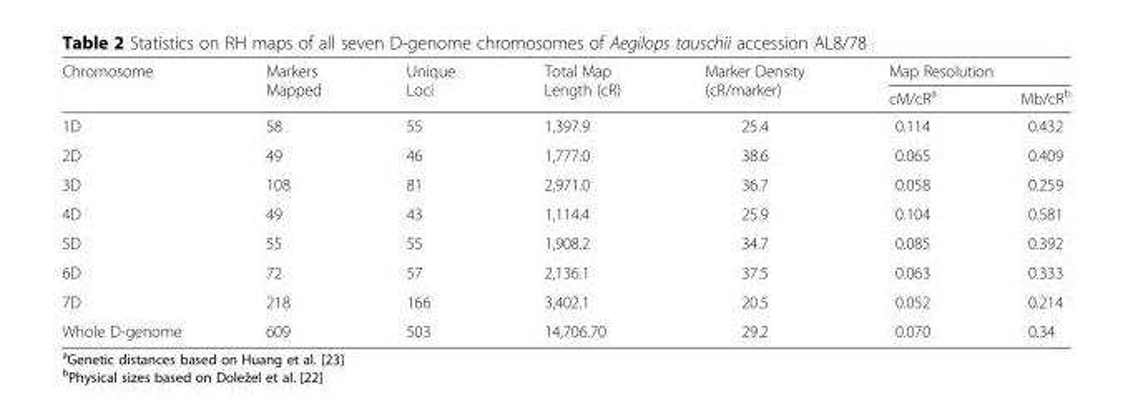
<table><thead><tr><td rowspan="2">Chromosome</td><td rowspan="2">Markers Mapped</td><td rowspan="2">Unique Loci</td><td rowspan="2">Total Map Length (cR)</td><td rowspan="2">Marker Density (cR/marker)</td><td colspan="2">Map Resolution</td></tr><tr><td>cM/cR<sup>a</sup></td><td>Mb/cR<sup>b</sup></td></tr></thead><tbody><tr><td>1D</td><td>58</td><td>55</td><td>1,397.9</td><td>25.4</td><td>0.114</td><td>0.432</td></tr><tr><td>2D</td><td>49</td><td>46</td><td>1,777.0</td><td>38.6</td><td>0.065</td><td>0.409</td></tr><tr><td>3D</td><td>108</td><td>81</td><td>2,971.0</td><td>36.7</td><td>0.058</td><td>0.259</td></tr><tr><td>4D</td><td>49</td><td>43</td><td>1,114.4</td><td>25.9</td><td>0.104</td><td>0.581</td></tr><tr><td>5D</td><td>55</td><td>55</td><td>1,908.2</td><td>34.7</td><td>0.085</td><td>0.392</td></tr><tr><td>6D</td><td>72</td><td>57</td><td>2,136.1</td><td>37.5</td><td>0.063</td><td>0.333</td></tr><tr><td>7D</td><td>218</td><td>166</td><td>3,402.1</td><td>20.5</td><td>0.052</td><td>0.214</td></tr><tr><td>Whole D-genome</td><td>609</td><td>503</td><td>14,706.70</td><td>29.2</td><td>0.070</td><td>0.34</td></tr></tbody></table>